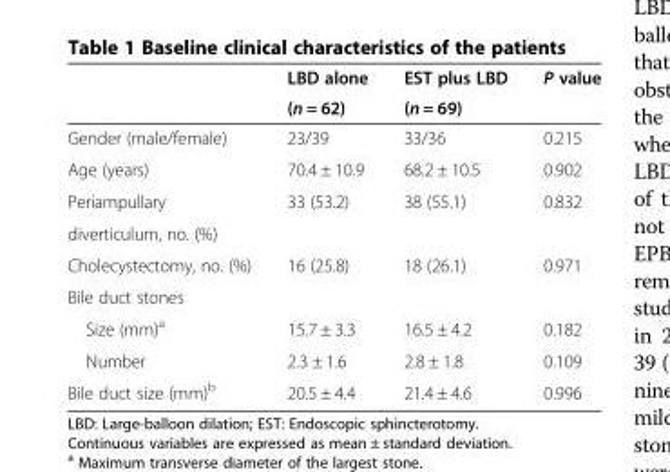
<table><thead><tr><td rowspan="2"></td><td rowspan="2">LBD alone (n = 62)</td><td rowspan="2">EST plus LBD (n = 69)</td><td rowspan="2">P value</td></tr><tr></tr></thead><tbody><tr><td>Gender (male/female)</td><td>23/39</td><td>33/36</td><td>0.215</td></tr><tr><td>Age (years)</td><td>70.4 ± 10.9</td><td>68.2 ± 10.5</td><td>0.902</td></tr><tr><td>Periampullary</td><td>33 (53.2)</td><td>38 (55.1)</td><td>0.832</td></tr><tr><td colspan="4">diverticulum, no. (%)</td></tr><tr><td>Cholecystectomy, no. (%)</td><td>16 (25.8)</td><td>18 (26.1)</td><td>0.971</td></tr><tr><td colspan="4">Bile duct stones</td></tr><tr><td>Size (mm)<sup>a</sup></td><td>15.7 ± 3.3</td><td>16.5 ± 4.2</td><td>0.182</td></tr><tr><td>Number</td><td>2.3 ± 1.6</td><td>2.8 ± 1.8</td><td>0.109</td></tr><tr><td>Bile duct size (mm)<sup>b</sup></td><td>20.5 ± 4.4</td><td>21.4 ± 4.6</td><td>0.996</td></tr></tbody></table>